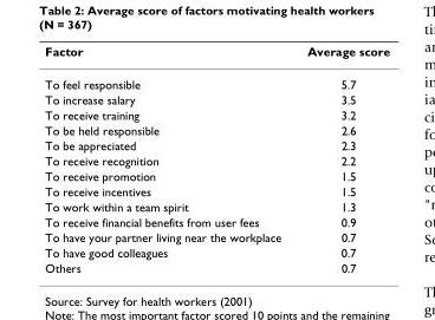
<table><thead><tr><td>Factor</td><td>Average score</td></tr></thead><tbody><tr><td>To feel responsible</td><td>5.7</td></tr><tr><td>To increase salary</td><td>3.5</td></tr><tr><td>To receive training</td><td>3.2</td></tr><tr><td>To be held responsible</td><td>2.6</td></tr><tr><td>To be appreciated</td><td>2.3</td></tr><tr><td>To receive recognition</td><td>2.2</td></tr><tr><td>To receive promotion</td><td>1.5</td></tr><tr><td>To receive incentives</td><td>1.5</td></tr><tr><td>To work within a team spirit</td><td>1.3</td></tr><tr><td>To receive financial benefits from user fees</td><td>0.9</td></tr><tr><td>To have your partner living near the workplace</td><td>0.7</td></tr><tr><td>To have good colleagues</td><td>0.7</td></tr><tr><td>Others</td><td>0.7</td></tr></tbody></table>